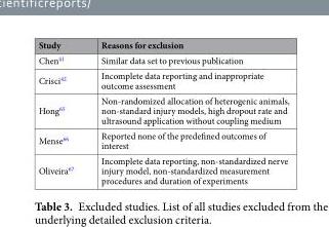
<table><thead><tr><td>Study</td><td>Reasons for exclusion</td></tr></thead><tbody><tr><td>Chen<sup>41</sup></td><td>Similar data set to previous publication</td></tr><tr><td>Crisci<sup>42</sup></td><td>Incomplete data reporting and inappropriate outcome assessment</td></tr><tr><td>Hong<sup>65</sup></td><td>Non-randomized allocation of heterogenic animals, non-standard injury models, high dropout rate and ultrasound application without coupling medium</td></tr><tr><td>Mense<sup>66</sup></td><td>Reported none of the predefined outcomes of interest</td></tr><tr><td>Oliveira<sup>67</sup></td><td>Incomplete data reporting, non-standardized nerve injury model, non-standardized measurement procedures and duration of experiments</td></tr></tbody></table>